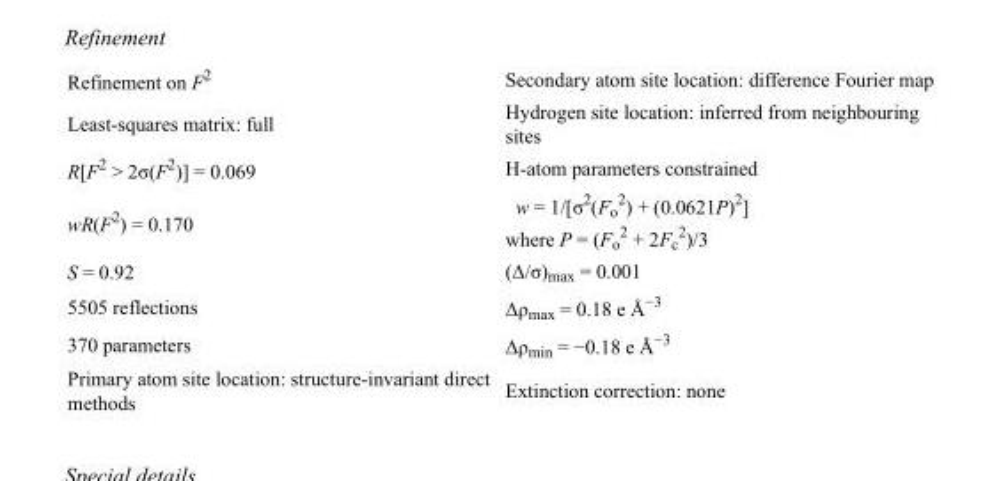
<table><tbody><tr><td>Refinement on F<sup>2</sup></td><td>Secondary atom site location: difference Fourier map</td></tr><tr><td>Least-squares matrix: full</td><td>Hydrogen site location: inferred from neighbouring sites</td></tr><tr><td>R[F<sup>2</sup> &gt; 2σ(F<sup>2</sup>)] = 0.069</td><td>H-atom parameters constrained</td></tr><tr><td>wR(F<sup>2</sup>) = 0.170</td><td>w = 1/[σ<sup>2</sup>(F<sub>o</sub> <sup>2</sup>) + (0.0621P)<sup>2</sup>] where P = (F<sub>o</sub> <sup>2</sup> + 2F<sub>c</sub> <sup>2</sup>)/3</td></tr><tr><td>S = 0.92</td><td>(Δ/σ)<sub>max</sub> = 0.001</td></tr><tr><td>5505 reflections</td><td>Δρ<sub>max</sub> = 0.18 e Å<sup>−3</sup></td></tr><tr><td>370 parameters</td><td>Δρ<sub>min</sub> = −0.18 e Å<sup>−3</sup></td></tr><tr><td>Primary atom site location: structure-invariant direct methods</td><td>Extinction correction: none</td></tr></tbody></table>